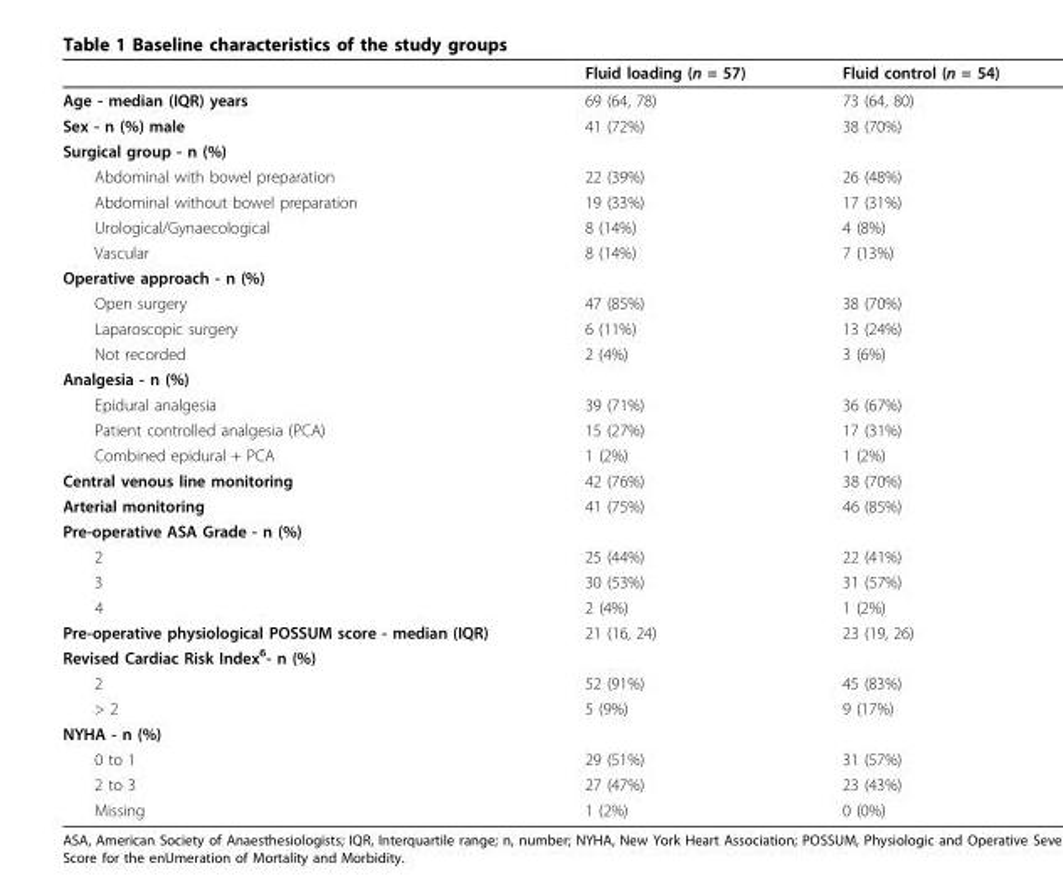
<table><thead><tr><td></td><td>Fluid loading (n = 57)</td><td>Fluid control (n = 54)</td></tr></thead><tbody><tr><td>Age - median (IQR) years</td><td>69 (64, 78)</td><td>73 (64, 80)</td></tr><tr><td>Sex - n (%) male</td><td>41 (72%)</td><td>38 (70%)</td></tr><tr><td colspan="3">Surgical group - n (%)</td></tr><tr><td>Abdominal with bowel preparation</td><td>22 (39%)</td><td>26 (48%)</td></tr><tr><td>Abdominal without bowel preparation</td><td>19 (33%)</td><td>17 (31%)</td></tr><tr><td>Urological/Gynaecological</td><td>8 (14%)</td><td>4 (8%)</td></tr><tr><td>Vascular</td><td>8 (14%)</td><td>7 (13%)</td></tr><tr><td colspan="3">Operative approach - n (%)</td></tr><tr><td>Open surgery</td><td>47 (85%)</td><td>38 (70%)</td></tr><tr><td>Laparoscopic surgery</td><td>6 (11%)</td><td>13 (24%)</td></tr><tr><td>Not recorded</td><td>2 (4%)</td><td>3 (6%)</td></tr><tr><td colspan="3">Analgesia - n (%)</td></tr><tr><td>Epidural analgesia</td><td>39 (71%)</td><td>36 (67%)</td></tr><tr><td>Patient controlled analgesia (PCA)</td><td>15 (27%)</td><td>17 (31%)</td></tr><tr><td>Combined epidural + PCA</td><td>1 (2%)</td><td>1 (2%)</td></tr><tr><td>Central venous line monitoring</td><td>42 (76%)</td><td>38 (70%)</td></tr><tr><td>Arterial monitoring</td><td>41 (75%)</td><td>46 (85%)</td></tr><tr><td colspan="3">Pre-operative ASA Grade - n (%)</td></tr><tr><td>2</td><td>25 (44%)</td><td>22 (41%)</td></tr><tr><td>3</td><td>30 (53%)</td><td>31 (57%)</td></tr><tr><td>4</td><td>2 (4%)</td><td>1 (2%)</td></tr><tr><td>Pre-operative physiological POSSUM score - median (IQR)</td><td>21 (16, 24)</td><td>23 (19, 26)</td></tr><tr><td colspan="3">Revised Cardiac Risk Index<sup>6</sup>- n (%)</td></tr><tr><td>2</td><td>52 (91%)</td><td>45 (83%)</td></tr><tr><td>&gt; 2</td><td>5 (9%)</td><td>9 (17%)</td></tr><tr><td colspan="3">NYHA - n (%)</td></tr><tr><td>0 to 1</td><td>29 (51%)</td><td>31 (57%)</td></tr><tr><td>2 to 3</td><td>27 (47%)</td><td>23 (43%)</td></tr><tr><td>Missing</td><td>1 (2%)</td><td>0 (0%)</td></tr></tbody></table>